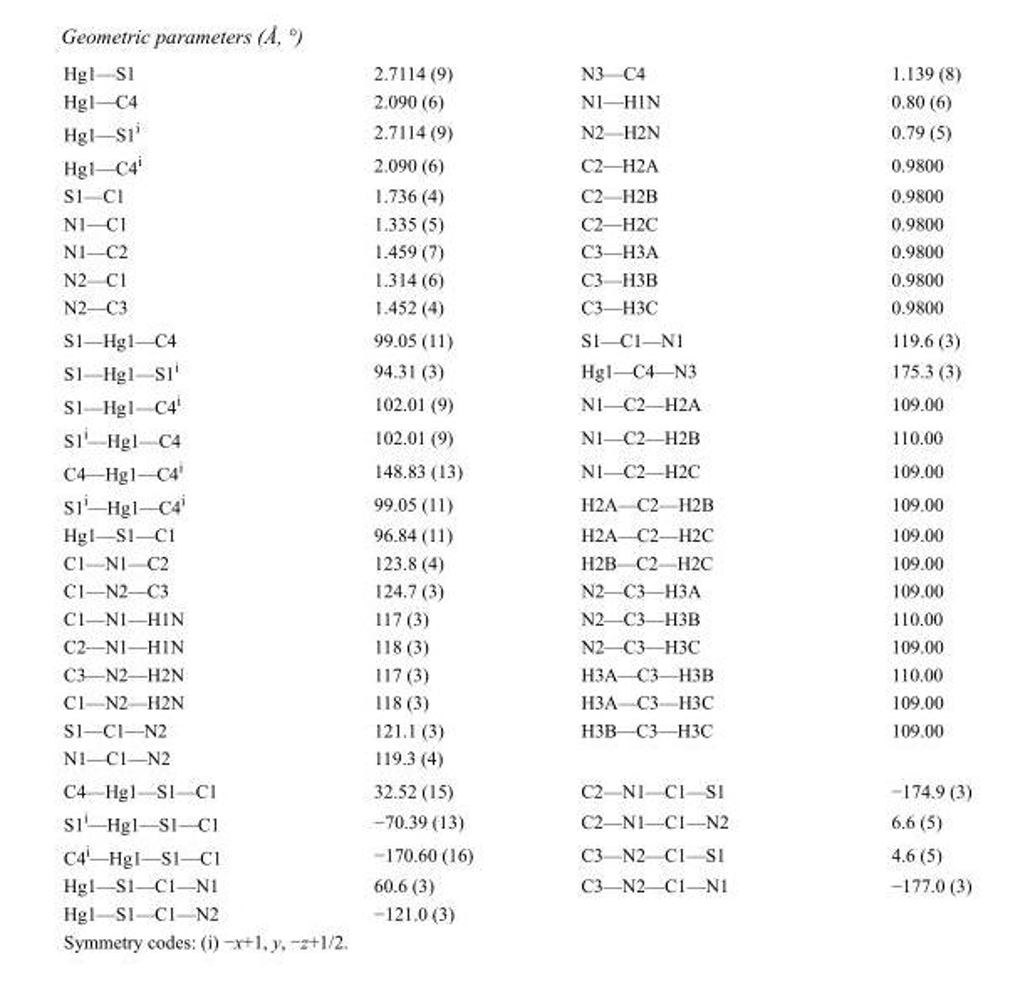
<table><tbody><tr><td>Hg1—S1</td><td>2.7114 (9)</td><td>N3—C4</td><td>1.139 (8)</td></tr><tr><td>Hg1—C4</td><td>2.090 (6)</td><td>N1—H1N</td><td>0.80 (6)</td></tr><tr><td>Hg1—S1<sup>i</sup></td><td>2.7114 (9)</td><td>N2—H2N</td><td>0.79 (5)</td></tr><tr><td>Hg1—C4<sup>i</sup></td><td>2.090 (6)</td><td>C2—H2A</td><td>0.9800</td></tr><tr><td>S1—C1</td><td>1.736 (4)</td><td>C2—H2B</td><td>0.9800</td></tr><tr><td>N1—C1</td><td>1.335 (5)</td><td>C2—H2C</td><td>0.9800</td></tr><tr><td>N1—C2</td><td>1.459 (7)</td><td>C3—H3A</td><td>0.9800</td></tr><tr><td>N2—C1</td><td>1.314 (6)</td><td>C3—H3B</td><td>0.9800</td></tr><tr><td>N2—C3</td><td>1.452 (4)</td><td>C3—H3C</td><td>0.9800</td></tr><tr><td>S1—Hg1—C4</td><td>99.05 (11)</td><td>S1—C1—N1</td><td>119.6 (3)</td></tr><tr><td>S1—Hg1—S1<sup>i</sup></td><td>94.31 (3)</td><td>Hg1—C4—N3</td><td>175.3 (3)</td></tr><tr><td>S1—Hg1—C4<sup>i</sup></td><td>102.01 (9)</td><td>N1—C2—H2A</td><td>109.00</td></tr><tr><td>S1<sup>i</sup>—Hg1—C4</td><td>102.01 (9)</td><td>N1—C2—H2B</td><td>110.00</td></tr><tr><td>C4—Hg1—C4<sup>i</sup></td><td>148.83 (13)</td><td>N1—C2—H2C</td><td>109.00</td></tr><tr><td>S1<sup>i</sup>—Hg1—C4<sup>i</sup></td><td>99.05 (11)</td><td>H2A—C2—H2B</td><td>109.00</td></tr><tr><td>Hg1—S1—C1</td><td>96.84 (11)</td><td>H2A—C2—H2C</td><td>109.00</td></tr><tr><td>C1—N1—C2</td><td>123.8 (4)</td><td>H2B—C2—H2C</td><td>109.00</td></tr><tr><td>C1—N2—C3</td><td>124.7 (3)</td><td>N2—C3—H3A</td><td>109.00</td></tr><tr><td>C1—N1—H1N</td><td>117 (3)</td><td>N2—C3—H3B</td><td>110.00</td></tr><tr><td>C2—N1—H1N</td><td>118 (3)</td><td>N2—C3—H3C</td><td>109.00</td></tr><tr><td>C3—N2—H2N</td><td>117 (3)</td><td>H3A—C3—H3B</td><td>110.00</td></tr><tr><td>C1—N2—H2N</td><td>118 (3)</td><td>H3A—C3—H3C</td><td>109.00</td></tr><tr><td>S1—C1—N2</td><td>121.1 (3)</td><td>H3B—C3—H3C</td><td>109.00</td></tr><tr><td>N1—C1—N2</td><td>119.3 (4)</td><td></td><td></td></tr><tr><td>C4—Hg1—S1—C1</td><td>32.52 (15)</td><td>C2—N1—C1—S1</td><td>−174.9 (3)</td></tr><tr><td>S1<sup>i</sup>—Hg1—S1—C1</td><td>−70.39 (13)</td><td>C2—N1—C1—N2</td><td>6.6 (5)</td></tr><tr><td>C4<sup>i</sup>—Hg1—S1—C1</td><td>−170.60 (16)</td><td>C3—N2—C1—S1</td><td>4.6 (5)</td></tr><tr><td>Hg1—S1—C1—N1</td><td>60.6 (3)</td><td>C3—N2—C1—N1</td><td>−177.0 (3)</td></tr><tr><td>Hg1—S1—C1—N2</td><td>−121.0 (3)</td><td></td><td></td></tr></tbody></table>